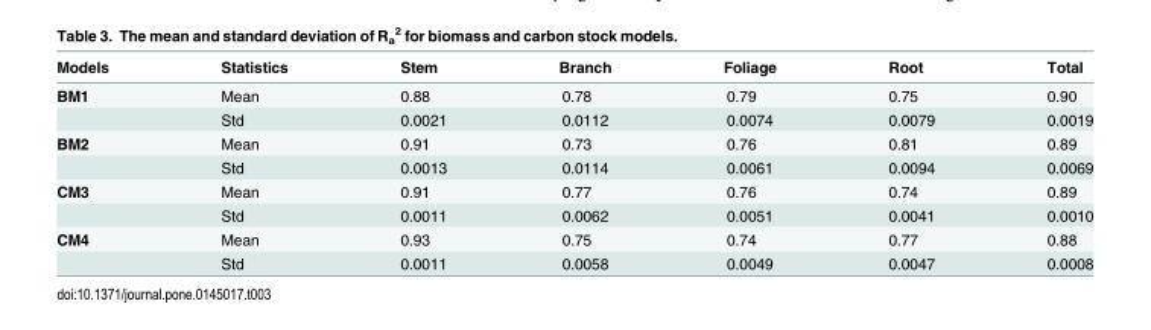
<table><thead><tr><td>Models</td><td>Statistics</td><td>Stem</td><td>Branch</td><td>Foliage</td><td>Root</td><td>Total</td></tr></thead><tbody><tr><td rowspan="2">BM1</td><td>Mean</td><td>0.88</td><td>0.78</td><td>0.79</td><td>0.75</td><td>0.90</td></tr><tr><td>Std</td><td>0.0021</td><td>0.0112</td><td>0.0074</td><td>0.0079</td><td>0.0019</td></tr><tr><td rowspan="2">BM2</td><td>Mean</td><td>0.91</td><td>0.73</td><td>0.76</td><td>0.81</td><td>0.89</td></tr><tr><td>Std</td><td>0.0013</td><td>0.0114</td><td>0.0061</td><td>0.0094</td><td>0.0069</td></tr><tr><td rowspan="2">CM3</td><td>Mean</td><td>0.91</td><td>0.77</td><td>0.76</td><td>0.74</td><td>0.89</td></tr><tr><td>Std</td><td>0.0011</td><td>0.0062</td><td>0.0051</td><td>0.0041</td><td>0.0010</td></tr><tr><td rowspan="2">CM4</td><td>Mean</td><td>0.93</td><td>0.75</td><td>0.74</td><td>0.77</td><td>0.88</td></tr><tr><td>Std</td><td>0.0011</td><td>0.0058</td><td>0.0049</td><td>0.0047</td><td>0.0008</td></tr></tbody></table>